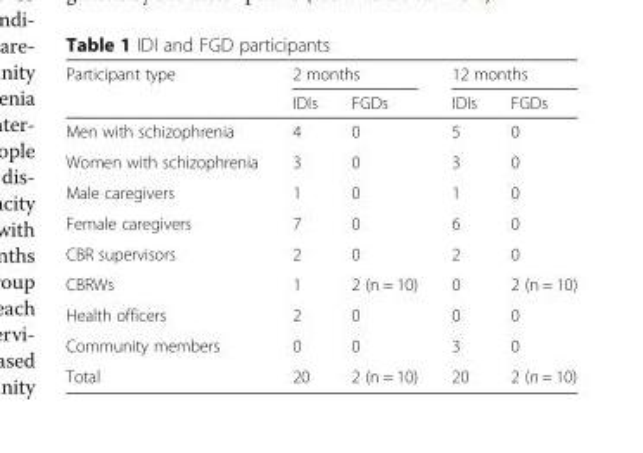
<table><thead><tr><td rowspan="2">Participant type</td><td colspan="2">2 months</td><td colspan="2">12 months</td></tr><tr><td>IDIs</td><td>FGDs</td><td>IDIs</td><td>FGDs</td></tr></thead><tbody><tr><td>Men with schizophrenia</td><td>4</td><td>0</td><td>5</td><td>0</td></tr><tr><td>Women with schizophrenia</td><td>3</td><td>0</td><td>3</td><td>0</td></tr><tr><td>Male caregivers</td><td>1</td><td>0</td><td>1</td><td>0</td></tr><tr><td>Female caregivers</td><td>7</td><td>0</td><td>6</td><td>0</td></tr><tr><td>CBR supervisors</td><td>2</td><td>0</td><td>2</td><td>0</td></tr><tr><td>CBRWs</td><td>1</td><td>2 (n = 10)</td><td>0</td><td>2 (n = 10)</td></tr><tr><td>Health officers</td><td>2</td><td>0</td><td>0</td><td>0</td></tr><tr><td>Community members</td><td>0</td><td>0</td><td>3</td><td>0</td></tr><tr><td>Total</td><td>20</td><td>2 (n = 10)</td><td>20</td><td>2 (n = 10)</td></tr></tbody></table>